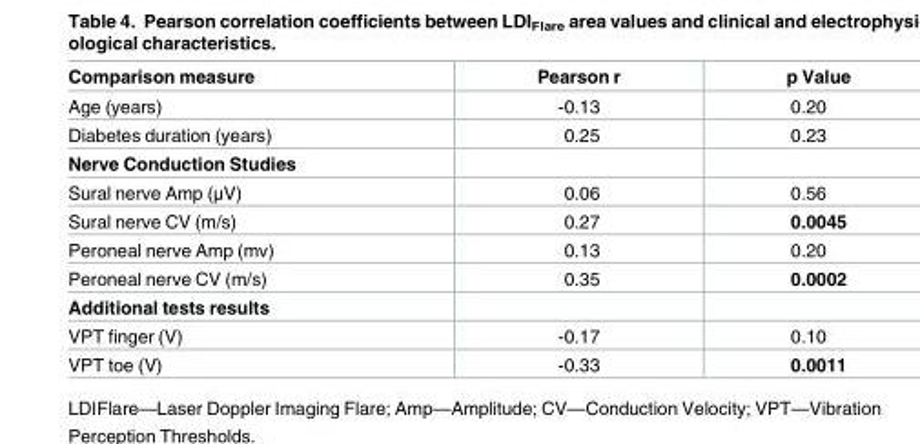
<table><thead><tr><td>Comparison measure</td><td>Pearson r</td><td>p Value</td></tr></thead><tbody><tr><td>Age (years)</td><td>-0.13</td><td>0.20</td></tr><tr><td>Diabetes duration (years)</td><td>0.25</td><td>0.23</td></tr><tr><td colspan="3">Nerve Conduction Studies</td></tr><tr><td>Sural nerve Amp (μV)</td><td>0.06</td><td>0.56</td></tr><tr><td>Sural nerve CV (m/s)</td><td>0.27</td><td>0.0045</td></tr><tr><td>Peroneal nerve Amp (mv)</td><td>0.13</td><td>0.20</td></tr><tr><td>Peroneal nerve CV (m/s)</td><td>0.35</td><td>0.0002</td></tr><tr><td colspan="3">Additional tests results</td></tr><tr><td>VPT finger (V)</td><td>-0.17</td><td>0.10</td></tr><tr><td>VPT toe (V)</td><td>-0.33</td><td>0.0011</td></tr></tbody></table>